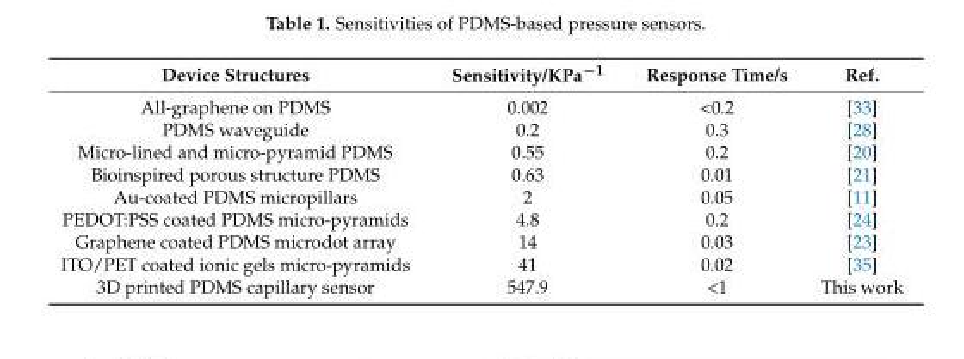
<table><thead><tr><td>Device Structures</td><td>Sensitivity/KPa<sup>−1</sup></td><td>Response Time/s</td><td>Ref.</td></tr></thead><tbody><tr><td>All-graphene on PDMS</td><td>0.002</td><td>&lt;0.2</td><td>[33]</td></tr><tr><td>PDMS waveguide</td><td>0.2</td><td>0.3</td><td>[28]</td></tr><tr><td>Micro-lined and micro-pyramid PDMS</td><td>0.55</td><td>0.2</td><td>[20]</td></tr><tr><td>Bioinspired porous structure PDMS</td><td>0.63</td><td>0.01</td><td>[21]</td></tr><tr><td>Au-coated PDMS micropillars</td><td>2</td><td>0.05</td><td>[11]</td></tr><tr><td>PEDOT:PSS coated PDMS micro-pyramids</td><td>4.8</td><td>0.2</td><td>[24]</td></tr><tr><td>Graphene coated PDMS microdot array</td><td>14</td><td>0.03</td><td>[23]</td></tr><tr><td>ITO/PET coated ionic gels micro-pyramids</td><td>41</td><td>0.02</td><td>[35]</td></tr><tr><td>3D printed PDMS capillary sensor</td><td>547.9</td><td>&lt;1</td><td>This work</td></tr></tbody></table>